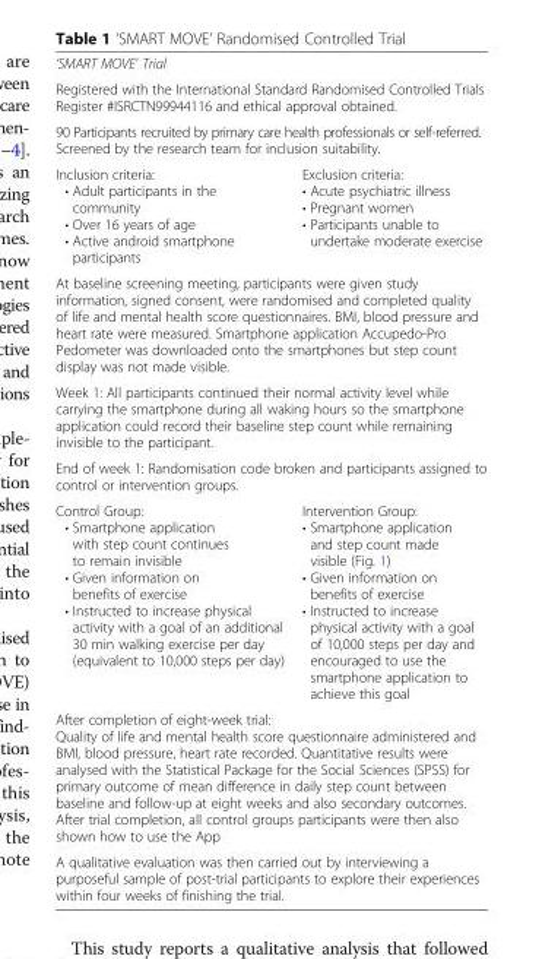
<table><tbody><tr><td colspan="2">‘SMART MOVE’ Trial</td></tr><tr><td colspan="2">Registered with the International Standard Randomised Controlled Trials Register #ISRCTN99944116 and ethical approval obtained.</td></tr><tr><td colspan="2">90 Participants recruited by primary care health professionals or self-referred. Screened by the research team for inclusion suitability.</td></tr><tr><td>Inclusion criteria: • Adult participants in the community • Over 16 years of age • Active android smartphone participants</td><td>Exclusion criteria: • Acute psychiatric illness • Pregnant women • Participants unable to undertake moderate exercise</td></tr><tr><td colspan="2">At baseline screening meeting, participants were given study information, signed consent, were randomised and completed quality of life and mental health score questionnaires. BMI, blood pressure and heart rate were measured. Smartphone application Accupedo-Pro Pedometer was downloaded onto the smartphones but step count display was not made visible.</td></tr><tr><td colspan="2">Week 1: All participants continued their normal activity level while carrying the smartphone during all waking hours so the smartphone application could record their baseline step count while remaining invisible to the participant.</td></tr><tr><td colspan="2">End of week 1: Randomisation code broken and participants assigned to control or intervention groups.</td></tr><tr><td>Control Group: • Smartphone application with step count continues to remain invisible • Given information on benefits of exercise • Instructed to increase physical activity with a goal of an additional 30 min walking exercise per day (equivalent to 10,000 steps per day)</td><td>Intervention Group: • Smartphone application and step count made visible (Fig. 1) • Given information on benefits of exercise • Instructed to increase physical activity with a goal of 10,000 steps per day and encouraged to use the smartphone application to achieve this goal</td></tr><tr><td colspan="2">After completion of eight-week trial: Quality of life and mental health score questionnaire administered and BMI, blood pressure, heart rate recorded. Quantitative results were analysed with the Statistical Package for the Social Sciences (SPSS) for primary outcome of mean difference in daily step count between baseline and follow-up at eight weeks and also secondary outcomes. After trial completion, all control groups participants were then also shown how to use the App</td></tr><tr><td colspan="2">A qualitative evaluation was then carried out by interviewing a purposeful sample of post-trial participants to explore their experiences within four weeks of finishing the trial.</td></tr></tbody></table>